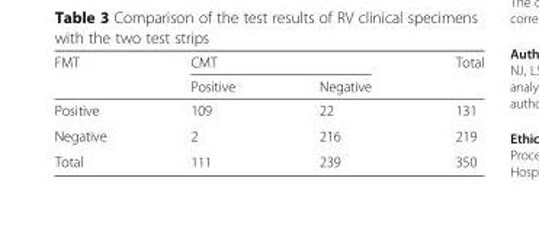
<table><thead><tr><td rowspan="2">FMT</td><td colspan="2">CMT</td><td rowspan="2">Total</td></tr><tr><td>Positive</td><td>Negative</td></tr></thead><tbody><tr><td>Positive</td><td>109</td><td>22</td><td>131</td></tr><tr><td>Negative</td><td>2</td><td>216</td><td>219</td></tr><tr><td>Total</td><td>111</td><td>239</td><td>350</td></tr></tbody></table>